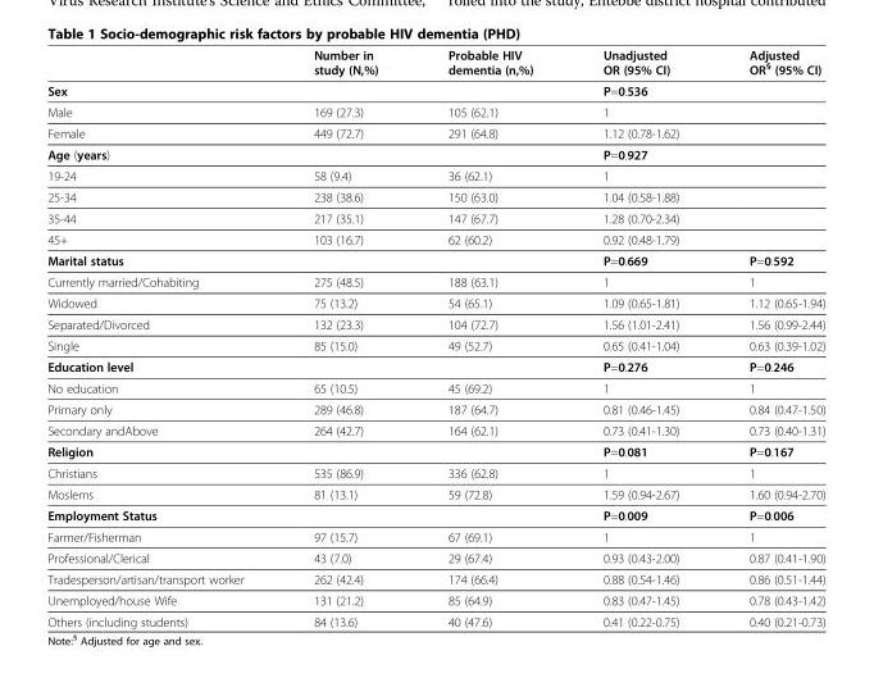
<table><thead><tr><td></td><td>Number in study (N,%)</td><td>Probable HIV dementia (n,%)</td><td>Unadjusted OR (95% CI)</td><td>Adjusted OR<sup>§</sup> (95% CI)</td></tr></thead><tbody><tr><td>Sex</td><td></td><td></td><td>P=0.536</td><td></td></tr><tr><td>Male</td><td>169 (27.3)</td><td>105 (62.1)</td><td>1</td><td></td></tr><tr><td>Female</td><td>449 (72.7)</td><td>291 (64.8)</td><td>1.12 (0.78-1.62)</td><td></td></tr><tr><td>Age (years)</td><td></td><td></td><td>P=0.927</td><td></td></tr><tr><td>19-24</td><td>58 (9.4)</td><td>36 (62.1)</td><td>1</td><td></td></tr><tr><td>25-34</td><td>238 (38.6)</td><td>150 (63.0)</td><td>1.04 (0.58-1.88)</td><td></td></tr><tr><td>35-44</td><td>217 (35.1)</td><td>147 (67.7)</td><td>1.28 (0.70-2.34)</td><td></td></tr><tr><td>45+</td><td>103 (16.7)</td><td>62 (60.2)</td><td>0.92 (0.48-1.79)</td><td></td></tr><tr><td>Marital status</td><td></td><td></td><td>P=0.669</td><td>P=0.592</td></tr><tr><td>Currently married/Cohabiting</td><td>275 (48.5)</td><td>188 (63.1)</td><td>1</td><td>1</td></tr><tr><td>Widowed</td><td>75 (13.2)</td><td>54 (65.1)</td><td>1.09 (0.65-1.81)</td><td>1.12 (0.65-1.94)</td></tr><tr><td>Separated/Divorced</td><td>132 (23.3)</td><td>104 (72.7)</td><td>1.56 (1.01-2.41)</td><td>1.56 (0.99-2.44)</td></tr><tr><td>Single</td><td>85 (15.0)</td><td>49 (52.7)</td><td>0.65 (0.41-1.04)</td><td>0.63 (0.39-1.02)</td></tr><tr><td>Education level</td><td></td><td></td><td>P=0.276</td><td>P=0.246</td></tr><tr><td>No education</td><td>65 (10.5)</td><td>45 (69.2)</td><td>1</td><td>1</td></tr><tr><td>Primary only</td><td>289 (46.8)</td><td>187 (64.7)</td><td>0.81 (0.46-1.45)</td><td>0.84 (0.47-1.50)</td></tr><tr><td>Secondary andAbove</td><td>264 (42.7)</td><td>164 (62.1)</td><td>0.73 (0.41-1.30)</td><td>0.73 (0.40-1.31)</td></tr><tr><td>Religion</td><td></td><td></td><td>P=0.081</td><td>P=0.167</td></tr><tr><td>Christians</td><td>535 (86.9)</td><td>336 (62.8)</td><td>1</td><td>1</td></tr><tr><td>Moslems</td><td>81 (13.1)</td><td>59 (72.8)</td><td>1.59 (0.94-2.67)</td><td>1.60 (0.94-2.70)</td></tr><tr><td>Employment Status</td><td></td><td></td><td>P=0.009</td><td>P=0.006</td></tr><tr><td>Farmer/Fisherman</td><td>97 (15.7)</td><td>67 (69.1)</td><td>1</td><td>1</td></tr><tr><td>Professional/Clerical</td><td>43 (7.0)</td><td>29 (67.4)</td><td>0.93 (0.43-2.00)</td><td>0.87 (0.41-1.90)</td></tr><tr><td>Tradesperson/artisan/transport worker</td><td>262 (42.4)</td><td>174 (66.4)</td><td>0.88 (0.54-1.46)</td><td>0.86 (0.51-1.44)</td></tr><tr><td>Unemployed/house Wife</td><td>131 (21.2)</td><td>85 (64.9)</td><td>0.83 (0.47-1.45)</td><td>0.78 (0.43-1.42)</td></tr><tr><td>Others (including students)</td><td>84 (13.6)</td><td>40 (47.6)</td><td>0.41 (0.22-0.75)</td><td>0.40 (0.21-0.73)</td></tr></tbody></table>